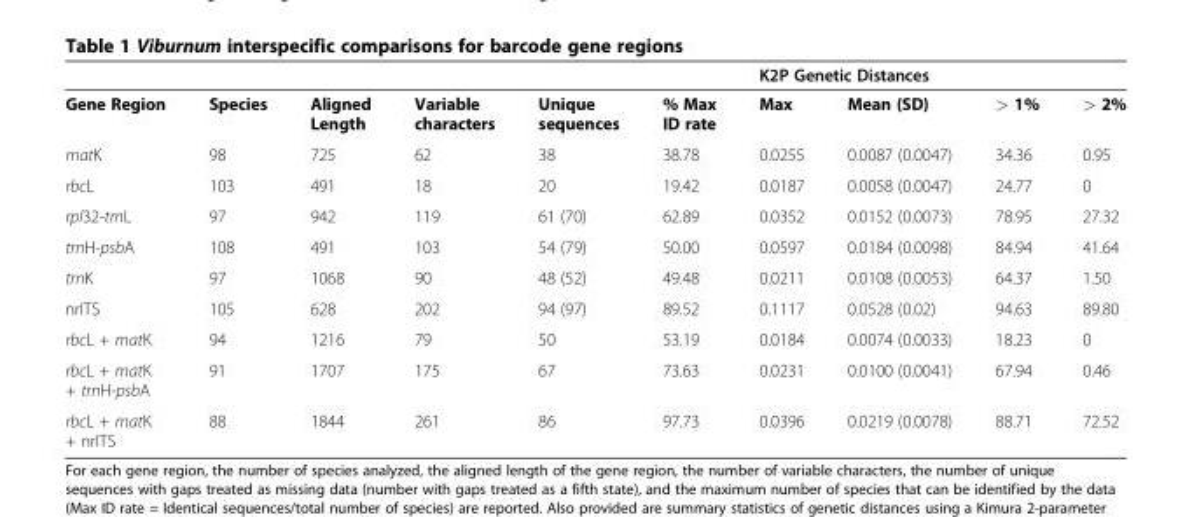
<table><thead><tr><td rowspan="2">Gene Region</td><td rowspan="2">Species</td><td rowspan="2">Aligned Length</td><td rowspan="2">Variable characters</td><td rowspan="2">Unique sequences</td><td rowspan="2">% Max ID rate</td><td colspan="4">K2P Genetic Distances</td></tr><tr><td>Max</td><td>Mean (SD)</td><td>&gt; 1%</td><td>&gt; 2%</td></tr></thead><tbody><tr><td>matK</td><td>98</td><td>725</td><td>62</td><td>38</td><td>38.78</td><td>0.0255</td><td>0.0087 (0.0047)</td><td>34.36</td><td>0.95</td></tr><tr><td>rbcL</td><td>103</td><td>491</td><td>18</td><td>20</td><td>19.42</td><td>0.0187</td><td>0.0058 (0.0047)</td><td>24.77</td><td>0</td></tr><tr><td>rpl32-trnL</td><td>97</td><td>942</td><td>119</td><td>61 (70)</td><td>62.89</td><td>0.0352</td><td>0.0152 (0.0073)</td><td>78.95</td><td>27.32</td></tr><tr><td>trnH-psbA</td><td>108</td><td>491</td><td>103</td><td>54 (79)</td><td>50.00</td><td>0.0597</td><td>0.0184 (0.0098)</td><td>84.94</td><td>41.64</td></tr><tr><td>trnK</td><td>97</td><td>1068</td><td>90</td><td>48 (52)</td><td>49.48</td><td>0.0211</td><td>0.0108 (0.0053)</td><td>64.37</td><td>1.50</td></tr><tr><td>nrITS</td><td>105</td><td>628</td><td>202</td><td>94 (97)</td><td>89.52</td><td>0.1117</td><td>0.0528 (0.02)</td><td>94.63</td><td>89.80</td></tr><tr><td>rbcL + matK</td><td>94</td><td>1216</td><td>79</td><td>50</td><td>53.19</td><td>0.0184</td><td>0.0074 (0.0033)</td><td>18.23</td><td>0</td></tr><tr><td>rbcL + matK + trnH-psbA</td><td>91</td><td>1707</td><td>175</td><td>67</td><td>73.63</td><td>0.0231</td><td>0.0100 (0.0041)</td><td>67.94</td><td>0.46</td></tr><tr><td>rbcL + matK + nrITS</td><td>88</td><td>1844</td><td>261</td><td>86</td><td>97.73</td><td>0.0396</td><td>0.0219 (0.0078)</td><td>88.71</td><td>72.52</td></tr></tbody></table>